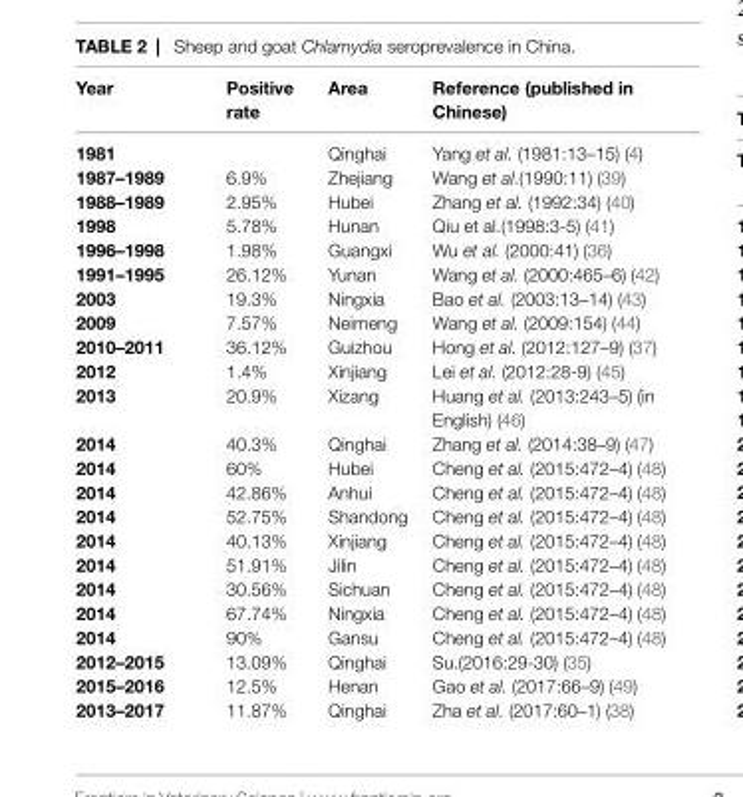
<table><thead><tr><td>Year</td><td>Positive rate</td><td>Area</td><td>Reference (published in Chinese)</td></tr></thead><tbody><tr><td>1981</td><td></td><td>Qinghai</td><td>Yang et al. (1981:13–15) (4)</td></tr><tr><td>1987–1989</td><td>6.9%</td><td>Zhejiang</td><td>Wang et al.(1990:11) (39)</td></tr><tr><td>1988–1989</td><td>2.95%</td><td>Hubei</td><td>Zhang et al. (1992:34) (40)</td></tr><tr><td>1998</td><td>5.78%</td><td>Hunan</td><td>Qiu et al.(1998:3-5) (41)</td></tr><tr><td>1996–1998</td><td>1.98%</td><td>Guangxi</td><td>Wu et al. (2000:41) (36)</td></tr><tr><td>1991–1995</td><td>26.12%</td><td>Yunan</td><td>Wang et al. (2000:465–6) (42)</td></tr><tr><td>2003</td><td>19.3%</td><td>Ningxia</td><td>Bao et al. (2003:13–14) (43)</td></tr><tr><td>2009</td><td>7.57%</td><td>Neimeng</td><td>Wang et al. (2009:154) (44)</td></tr><tr><td>2010–2011</td><td>36.12%</td><td>Guizhou</td><td>Hong et al. (2012:127–9) (37)</td></tr><tr><td>2012</td><td>1.4%</td><td>Xinjiang</td><td>Lei et al. (2012:28-9) (45)</td></tr><tr><td>2013</td><td>20.9%</td><td>Xizang</td><td>Huang et al. (2013:243–5) (in English) (46)</td></tr><tr><td>2014</td><td>40.3%</td><td>Qinghai</td><td>Zhang et al. (2014:38–9) (47)</td></tr><tr><td>2014</td><td>60%</td><td>Hubei</td><td>Cheng et al. (2015:472–4) (48)</td></tr><tr><td>2014</td><td>42.86%</td><td>Anhui</td><td>Cheng et al. (2015:472–4) (48)</td></tr><tr><td>2014</td><td>52.75%</td><td>Shandong</td><td>Cheng et al. (2015:472–4) (48)</td></tr><tr><td>2014</td><td>40.13%</td><td>Xinjiang</td><td>Cheng et al. (2015:472–4) (48)</td></tr><tr><td>2014</td><td>51.91%</td><td>Jilin</td><td>Cheng et al. (2015:472–4) (48)</td></tr><tr><td>2014</td><td>30.56%</td><td>Sichuan</td><td>Cheng et al. (2015:472–4) (48)</td></tr><tr><td>2014</td><td>67.74%</td><td>Ningxia</td><td>Cheng et al. (2015:472–4) (48)</td></tr><tr><td>2014</td><td>90%</td><td>Gansu</td><td>Cheng et al. (2015:472–4) (48)</td></tr><tr><td>2012–2015</td><td>13.09%</td><td>Qinghai</td><td>Su.(2016:29-30) (35)</td></tr><tr><td>2015–2016</td><td>12.5%</td><td>Henan</td><td>Gao et al. (2017:66–9) (49)</td></tr><tr><td>2013–2017</td><td>11.87%</td><td>Qinghai</td><td>Zha et al. (2017:60–1) (38)</td></tr></tbody></table>